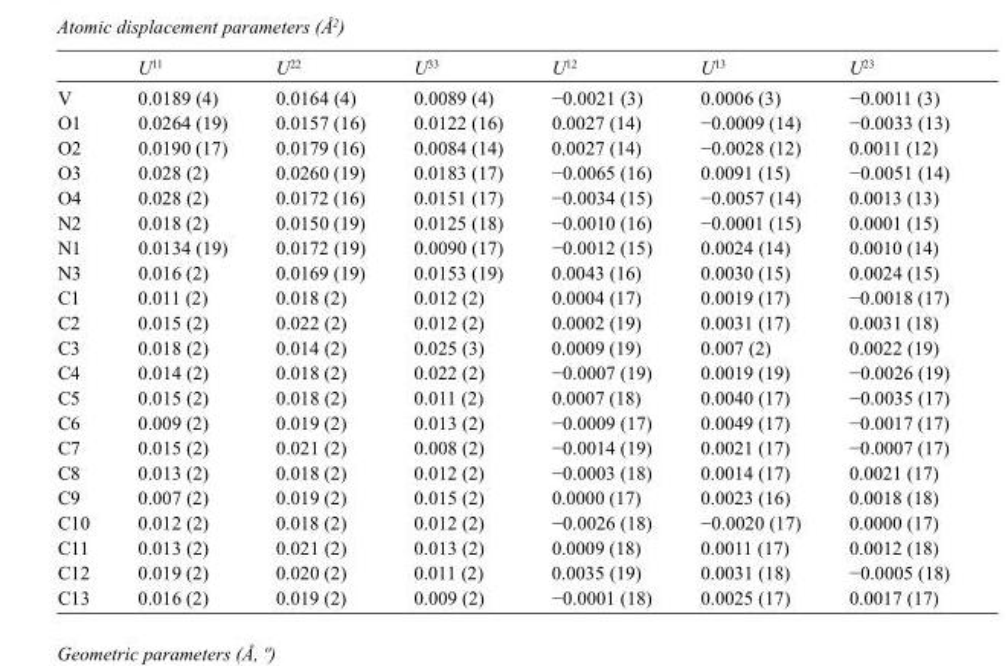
<table><thead><tr><td></td><td>U<sup>11</sup></td><td>U<sup>22</sup></td><td>U<sup>33</sup></td><td>U<sup>12</sup></td><td>U<sup>13</sup></td><td>U<sup>23</sup></td></tr></thead><tbody><tr><td>V</td><td>0.0189 (4)</td><td>0.0164 (4)</td><td>0.0089 (4)</td><td>−0.0021 (3)</td><td>0.0006 (3)</td><td>−0.0011 (3)</td></tr><tr><td>O1</td><td>0.0264 (19)</td><td>0.0157 (16)</td><td>0.0122 (16)</td><td>0.0027 (14)</td><td>−0.0009 (14)</td><td>−0.0033 (13)</td></tr><tr><td>O2</td><td>0.0190 (17)</td><td>0.0179 (16)</td><td>0.0084 (14)</td><td>0.0027 (14)</td><td>−0.0028 (12)</td><td>0.0011 (12)</td></tr><tr><td>O3</td><td>0.028 (2)</td><td>0.0260 (19)</td><td>0.0183 (17)</td><td>−0.0065 (16)</td><td>0.0091 (15)</td><td>−0.0051 (14)</td></tr><tr><td>O4</td><td>0.028 (2)</td><td>0.0172 (16)</td><td>0.0151 (17)</td><td>−0.0034 (15)</td><td>−0.0057 (14)</td><td>0.0013 (13)</td></tr><tr><td>N2</td><td>0.018 (2)</td><td>0.0150 (19)</td><td>0.0125 (18)</td><td>−0.0010 (16)</td><td>−0.0001 (15)</td><td>0.0001 (15)</td></tr><tr><td>N1</td><td>0.0134 (19)</td><td>0.0172 (19)</td><td>0.0090 (17)</td><td>−0.0012 (15)</td><td>0.0024 (14)</td><td>0.0010 (14)</td></tr><tr><td>N3</td><td>0.016 (2)</td><td>0.0169 (19)</td><td>0.0153 (19)</td><td>0.0043 (16)</td><td>0.0030 (15)</td><td>0.0024 (15)</td></tr><tr><td>C1</td><td>0.011 (2)</td><td>0.018 (2)</td><td>0.012 (2)</td><td>0.0004 (17)</td><td>0.0019 (17)</td><td>−0.0018 (17)</td></tr><tr><td>C2</td><td>0.015 (2)</td><td>0.022 (2)</td><td>0.012 (2)</td><td>0.0002 (19)</td><td>0.0031 (17)</td><td>0.0031 (18)</td></tr><tr><td>C3</td><td>0.018 (2)</td><td>0.014 (2)</td><td>0.025 (3)</td><td>0.0009 (19)</td><td>0.007 (2)</td><td>0.0022 (19)</td></tr><tr><td>C4</td><td>0.014 (2)</td><td>0.018 (2)</td><td>0.022 (2)</td><td>−0.0007 (19)</td><td>0.0019 (19)</td><td>−0.0026 (19)</td></tr><tr><td>C5</td><td>0.015 (2)</td><td>0.018 (2)</td><td>0.011 (2)</td><td>0.0007 (18)</td><td>0.0040 (17)</td><td>−0.0035 (17)</td></tr><tr><td>C6</td><td>0.009 (2)</td><td>0.019 (2)</td><td>0.013 (2)</td><td>−0.0009 (17)</td><td>0.0049 (17)</td><td>−0.0017 (17)</td></tr><tr><td>C7</td><td>0.015 (2)</td><td>0.021 (2)</td><td>0.008 (2)</td><td>−0.0014 (19)</td><td>0.0021 (17)</td><td>−0.0007 (17)</td></tr><tr><td>C8</td><td>0.013 (2)</td><td>0.018 (2)</td><td>0.012 (2)</td><td>−0.0003 (18)</td><td>0.0014 (17)</td><td>0.0021 (17)</td></tr><tr><td>C9</td><td>0.007 (2)</td><td>0.019 (2)</td><td>0.015 (2)</td><td>0.0000 (17)</td><td>0.0023 (16)</td><td>0.0018 (18)</td></tr><tr><td>C10</td><td>0.012 (2)</td><td>0.018 (2)</td><td>0.012 (2)</td><td>−0.0026 (18)</td><td>−0.0020 (17)</td><td>0.0000 (17)</td></tr><tr><td>C11</td><td>0.013 (2)</td><td>0.021 (2)</td><td>0.013 (2)</td><td>0.0009 (18)</td><td>0.0011 (17)</td><td>0.0012 (18)</td></tr><tr><td>C12</td><td>0.019 (2)</td><td>0.020 (2)</td><td>0.011 (2)</td><td>0.0035 (19)</td><td>0.0031 (18)</td><td>−0.0005 (18)</td></tr><tr><td>C13</td><td>0.016 (2)</td><td>0.019 (2)</td><td>0.009 (2)</td><td>−0.0001 (18)</td><td>0.0025 (17)</td><td>0.0017 (17)</td></tr></tbody></table>